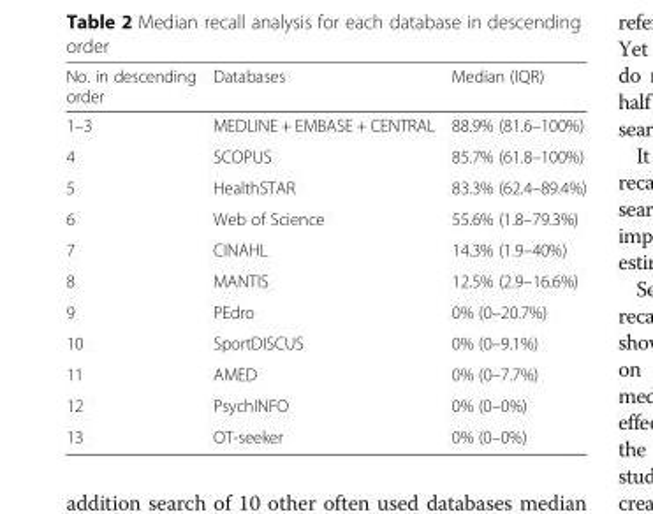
<table><thead><tr><td>No. in descending order</td><td>Databases</td><td>Median (IQR)</td></tr></thead><tbody><tr><td>1–3</td><td>MEDLINE + EMBASE + CENTRAL</td><td>88.9% (81.6–100%)</td></tr><tr><td>4</td><td>SCOPUS</td><td>85.7% (61.8–100%)</td></tr><tr><td>5</td><td>HealthSTAR</td><td>83.3% (62.4–89.4%)</td></tr><tr><td>6</td><td>Web of Science</td><td>55.6% (1.8–79.3%)</td></tr><tr><td>7</td><td>CINAHL</td><td>14.3% (1.9–40%)</td></tr><tr><td>8</td><td>MANTIS</td><td>12.5% (2.9–16.6%)</td></tr><tr><td>9</td><td>PEdro</td><td>0% (0–20.7%)</td></tr><tr><td>10</td><td>SportDISCUS</td><td>0% (0–9.1%)</td></tr><tr><td>11</td><td>AMED</td><td>0% (0–7.7%)</td></tr><tr><td>12</td><td>PsychINFO</td><td>0% (0–0%)</td></tr><tr><td>13</td><td>OT-seeker</td><td>0% (0–0%)</td></tr></tbody></table>